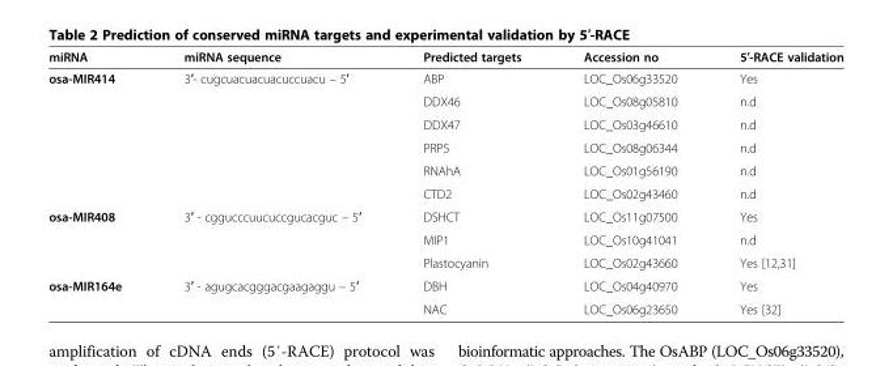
<table><thead><tr><td>miRNA</td><td>miRNA sequence</td><td>Predicted targets</td><td>Accession no</td><td>5′-RACE validation</td></tr></thead><tbody><tr><td rowspan="6">osa-MIR414</td><td>3′- cugcuacuacuacuccuacu – 5′</td><td>ABP</td><td>LOC_Os06g33520</td><td>Yes</td></tr><tr><td></td><td>DDX46</td><td>LOC_Os08g05810</td><td>n.d</td></tr><tr><td></td><td>DDX47</td><td>LOC_Os03g46610</td><td>n.d</td></tr><tr><td></td><td>PRP5</td><td>LOC_Os08g06344</td><td>n.d</td></tr><tr><td></td><td>RNAhA</td><td>LOC_Os01g56190</td><td>n.d</td></tr><tr><td></td><td>CTD2</td><td>LOC_Os02g43460</td><td>n.d</td></tr><tr><td rowspan="3">osa-MIR408</td><td>3′ - cggucccuucuccgucacguc – 5′</td><td>DSHCT</td><td>LOC_Os11g07500</td><td>Yes</td></tr><tr><td></td><td>MIP1</td><td>LOC_Os10g41041</td><td>n.d</td></tr><tr><td></td><td>Plastocyanin</td><td>LOC_Os02g43660</td><td>Yes [12,31]</td></tr><tr><td rowspan="2">osa-MIR164e</td><td>3′ - agugcacgggacgaagaggu – 5′</td><td>DBH</td><td>LOC_Os04g40970</td><td>Yes</td></tr><tr><td></td><td>NAC</td><td>LOC_Os06g23650</td><td>Yes [32]</td></tr></tbody></table>